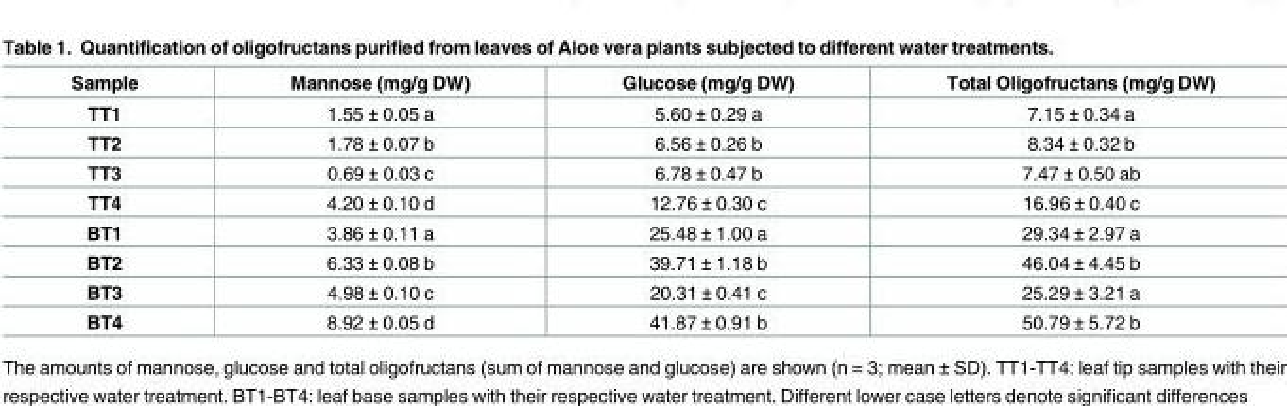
<table><thead><tr><td>Sample</td><td>Mannose (mg/g DW)</td><td>Glucose (mg/g DW)</td><td>Total Oligofructans (mg/g DW)</td></tr></thead><tbody><tr><td>TT1</td><td>1.55 ± 0.05 a</td><td>5.60 ± 0.29 a</td><td>7.15 ± 0.34 a</td></tr><tr><td>TT2</td><td>1.78 ± 0.07 b</td><td>6.56 ± 0.26 b</td><td>8.34 ± 0.32 b</td></tr><tr><td>TT3</td><td>0.69 ± 0.03 c</td><td>6.78 ± 0.47 b</td><td>7.47 ± 0.50 ab</td></tr><tr><td>TT4</td><td>4.20 ± 0.10 d</td><td>12.76 ± 0.30 c</td><td>16.96 ± 0.40 c</td></tr><tr><td>BT1</td><td>3.86 ± 0.11 a</td><td>25.48 ± 1.00 a</td><td>29.34 ± 2.97 a</td></tr><tr><td>BT2</td><td>6.33 ± 0.08 b</td><td>39.71 ± 1.18 b</td><td>46.04 ± 4.45 b</td></tr><tr><td>BT3</td><td>4.98 ± 0.10 c</td><td>20.31 ± 0.41 c</td><td>25.29 ± 3.21 a</td></tr><tr><td>BT4</td><td>8.92 ± 0.05 d</td><td>41.87 ± 0.91 b</td><td>50.79 ± 5.72 b</td></tr></tbody></table>